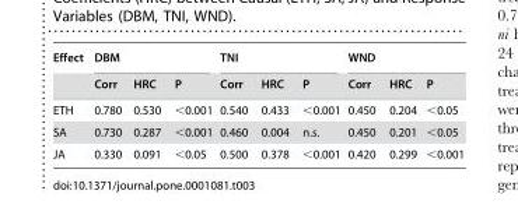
<table><thead><tr><td rowspan="2">Effect</td><td colspan="3">DBM</td><td colspan="3">TNI</td><td colspan="3">WND</td></tr><tr><td>Corr</td><td>HRC</td><td>P</td><td>Corr</td><td>HRC</td><td>P</td><td>Corr</td><td>HRC</td><td>P</td></tr></thead><tbody><tr><td>ETH</td><td>0.780</td><td>0.530</td><td>&lt;0.001</td><td>0.540</td><td>0.433</td><td>&lt;0.001</td><td>0.450</td><td>0.204</td><td>&lt;0.05</td></tr><tr><td>SA</td><td>0.730</td><td>0.287</td><td>&lt;0.001</td><td>0.460</td><td>0.004</td><td>n.s.</td><td>0.450</td><td>0.201</td><td>&lt;0.05</td></tr><tr><td>JA</td><td>0.330</td><td>0.091</td><td>&lt;0.05</td><td>0.500</td><td>0.378</td><td>&lt;0.001</td><td>0.420</td><td>0.299</td><td>&lt;0.001</td></tr></tbody></table>